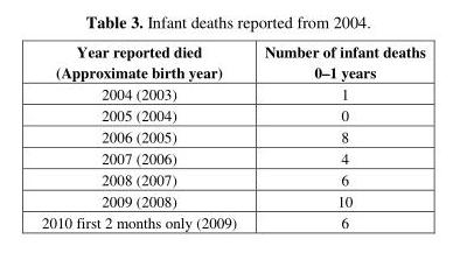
<table><thead><tr><td>Year reported died (Approximate birth year)</td><td>Number of infant deaths 0–1 years</td></tr></thead><tbody><tr><td>2004 (2003)</td><td>1</td></tr><tr><td>2005 (2004)</td><td>0</td></tr><tr><td>2006 (2005)</td><td>8</td></tr><tr><td>2007 (2006)</td><td>4</td></tr><tr><td>2008 (2007)</td><td>6</td></tr><tr><td>2009 (2008)</td><td>10</td></tr><tr><td>2010 first 2 months only (2009)</td><td>6</td></tr></tbody></table>